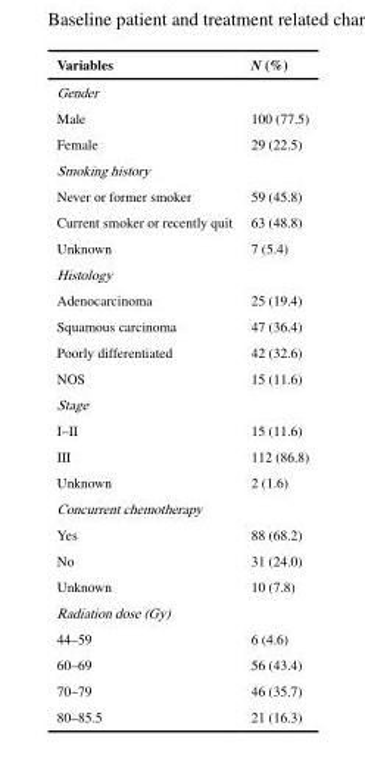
<table><thead><tr><td>Variables</td><td>N (%)</td></tr></thead><tbody><tr><td colspan="2">Gender</td></tr><tr><td>Male</td><td>100 (77.5)</td></tr><tr><td>Female</td><td>29 (22.5)</td></tr><tr><td colspan="2">Smoking history</td></tr><tr><td>Never or former smoker</td><td>59 (45.8)</td></tr><tr><td>Current smoker or recently quit</td><td>63 (48.8)</td></tr><tr><td>Unknown</td><td>7 (5.4)</td></tr><tr><td colspan="2">Histology</td></tr><tr><td>Adenocarcinoma</td><td>25 (19.4)</td></tr><tr><td>Squamous carcinoma</td><td>47 (36.4)</td></tr><tr><td>Poorly differentiated</td><td>42 (32.6)</td></tr><tr><td>NOS</td><td>15 (11.6)</td></tr><tr><td colspan="2">Stage</td></tr><tr><td>I–II</td><td>15 (11.6)</td></tr><tr><td>III</td><td>112 (86.8)</td></tr><tr><td>Unknown</td><td>2 (1.6)</td></tr><tr><td colspan="2">Concurrent chemotherapy</td></tr><tr><td>Yes</td><td>88 (68.2)</td></tr><tr><td>No</td><td>31 (24.0)</td></tr><tr><td>Unknown</td><td>10 (7.8)</td></tr><tr><td colspan="2">Radiation dose (Gy)</td></tr><tr><td>44–59</td><td>6 (4.6)</td></tr><tr><td>60–69</td><td>56 (43.4)</td></tr><tr><td>70–79</td><td>46 (35.7)</td></tr><tr><td>80–85.5</td><td>21 (16.3)</td></tr></tbody></table>